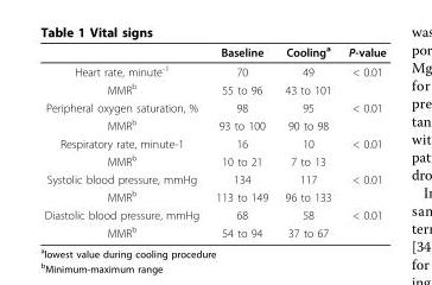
<table><thead><tr><td></td><td>Baseline</td><td>Cooling<sup>a</sup></td><td>P-value</td></tr></thead><tbody><tr><td>Heart rate, minute<sup>-1</sup></td><td>70</td><td>49</td><td>&lt; 0.01</td></tr><tr><td>MMR<sup>b</sup></td><td>55 to 96</td><td>43 to 101</td><td></td></tr><tr><td>Peripheral oxygen saturation, %</td><td>98</td><td>95</td><td>&lt; 0.01</td></tr><tr><td>MMR<sup>b</sup></td><td>93 to 100</td><td>90 to 98</td><td></td></tr><tr><td>Respiratory rate, minute-1</td><td>16</td><td>10</td><td>&lt; 0.01</td></tr><tr><td>MMR<sup>b</sup></td><td>10 to 21</td><td>7 to 13</td><td></td></tr><tr><td>Systolic blood pressure, mmHg</td><td>134</td><td>117</td><td>&lt; 0.01</td></tr><tr><td>MMR<sup>b</sup></td><td>113 to 149</td><td>96 to 133</td><td></td></tr><tr><td>Diastolic blood pressure, mmHg</td><td>68</td><td>58</td><td>&lt; 0.01</td></tr><tr><td>MMR<sup>b</sup></td><td>54 to 94</td><td>37 to 67</td><td></td></tr></tbody></table>